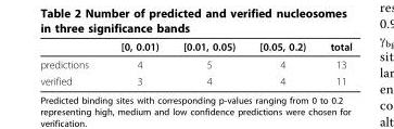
<table><thead><tr><td></td><td>[0, 0.01)</td><td>[0.01, 0.05)</td><td>[0.05, 0.2)</td><td>total</td></tr></thead><tbody><tr><td>predictions</td><td>4</td><td>5</td><td>4</td><td>13</td></tr><tr><td>verified</td><td>3</td><td>4</td><td>4</td><td>11</td></tr></tbody></table>